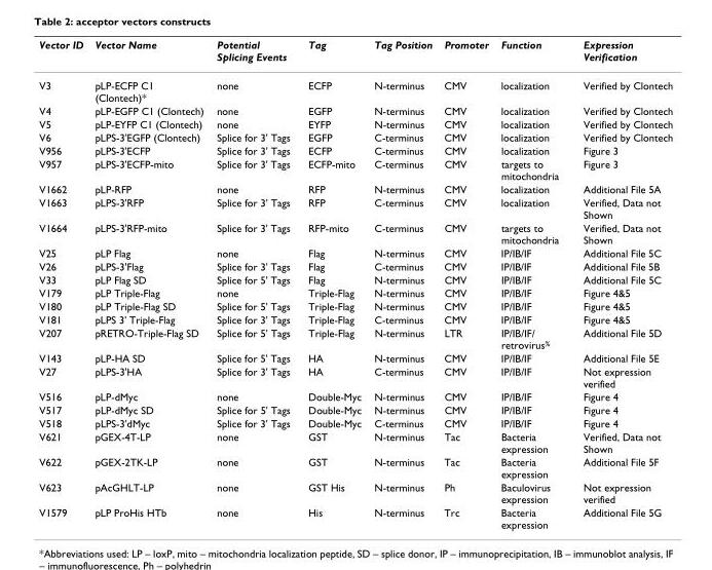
<table><thead><tr><td>Vector ID</td><td>Vector Name</td><td>Potential Splicing Events</td><td>Tag</td><td>Tag Position</td><td>Promoter</td><td>Function</td><td>Expression Verification</td></tr></thead><tbody><tr><td>V3</td><td>pLP-ECFP C1 (Clontech)*</td><td>none</td><td>ECFP</td><td>N-terminus</td><td>CMV</td><td>localization</td><td>Verified by Clontech</td></tr><tr><td>V4</td><td>pLP-EGFP C1 (Clontech)</td><td>none</td><td>EGFP</td><td>N-terminus</td><td>CMV</td><td>localization</td><td>Verified by Clontech</td></tr><tr><td>V5</td><td>pLP-EYFP C1 (Clontech)</td><td>none</td><td>EYFP</td><td>N-terminus</td><td>CMV</td><td>localization</td><td>Verified by Clontech</td></tr><tr><td>V6</td><td>pLPS-3&#x27;EGFP (Clontech)</td><td>Splice for 3&#x27; Tags</td><td>EGFP</td><td>C-terminus</td><td>CMV</td><td>localization</td><td>Verified by Clontech</td></tr><tr><td>V956</td><td>pLPS-3&#x27;ECFP</td><td>Splice for 3&#x27; Tags</td><td>ECFP</td><td>C-terminus</td><td>CMV</td><td>localization</td><td>Figure 3</td></tr><tr><td>V957</td><td>pLPS-3&#x27;ECFP-mito</td><td>Splice for 3&#x27; Tags</td><td>ECFP-mito</td><td>C-terminus</td><td>CMV</td><td>targets to mitochondria</td><td>Figure 3</td></tr><tr><td>V1662</td><td>pLP-RFP</td><td>none</td><td>RFP</td><td>N-terminus</td><td>CMV</td><td>localization</td><td>Additional File 5A</td></tr><tr><td>V1663</td><td>pLPS-3&#x27;RFP</td><td>Splice for 3&#x27; Tags</td><td>RFP</td><td>C-terminus</td><td>CMV</td><td>localization</td><td>Verified, Data not Shown</td></tr><tr><td>V1664</td><td>pLPS-3&#x27;RFP-mito</td><td>Splice for 3&#x27; Tags</td><td>RFP-mito</td><td>C-terminus</td><td>CMV</td><td>targets to mitochondria</td><td>Verified, Data not Shown</td></tr><tr><td>V25</td><td>pLP Flag</td><td>none</td><td>Flag</td><td>N-terminus</td><td>CMV</td><td>IP/IB/IF</td><td>Additional File 5C</td></tr><tr><td>V26</td><td>pLPS-3&#x27;Flag</td><td>Splice for 3&#x27; Tags</td><td>Flag</td><td>C-terminus</td><td>CMV</td><td>IP/IB/IF</td><td>Additional File 5B</td></tr><tr><td>V33</td><td>pLP Flag SD</td><td>Splice for 5&#x27; Tags</td><td>Flag</td><td>N-terminus</td><td>CMV</td><td>IP/IB/IF</td><td>Additional File 5C</td></tr><tr><td>V179</td><td>pLP Triple-Flag</td><td>none</td><td>Triple-Flag</td><td>N-terminus</td><td>CMV</td><td>IP/IB/IF</td><td>Figure 4&amp;5</td></tr><tr><td>V180</td><td>pLP Triple-Flag SD</td><td>Splice for 5&#x27; Tags</td><td>Triple-Flag</td><td>N-terminus</td><td>CMV</td><td>IP/IB/IF</td><td>Figure 4&amp;5</td></tr><tr><td>V181</td><td>pLPS 3&#x27; Triple-Flag</td><td>Splice for 3&#x27; Tags</td><td>Triple-Flag</td><td>C-terminus</td><td>CMV</td><td>IP/IB/IF</td><td>Figure 4&amp;5</td></tr><tr><td>V207</td><td>pRETRO-Triple-Flag SD</td><td>Splice for 5&#x27; Tags</td><td>Triple-Flag</td><td>N-terminus</td><td>LTR</td><td>IP/IB/IF/ retrovirus%</td><td>Additional File 5D</td></tr><tr><td>V143</td><td>pLP-HA SD</td><td>Splice for 5&#x27; Tags</td><td>HA</td><td>N-terminus</td><td>CMV</td><td>IP/IB/IF</td><td>Additional File 5E</td></tr><tr><td>V27</td><td>pLPS-3&#x27;HA</td><td>Splice for 3&#x27; Tags</td><td>HA</td><td>C-terminus</td><td>CMV</td><td>IP/IB/IF</td><td>Not expression verified</td></tr><tr><td>V516</td><td>pLP-dMyc</td><td>none</td><td>Double-Myc</td><td>N-terminus</td><td>CMV</td><td>IP/IB/IF</td><td>Figure 4</td></tr><tr><td>V517</td><td>pLP-dMyc SD</td><td>Splice for 5&#x27; Tags</td><td>Double-Myc</td><td>N-terminus</td><td>CMV</td><td>IP/IB/IF</td><td>Figure 4</td></tr><tr><td>V518</td><td>pLPS-3&#x27;dMyc</td><td>Splice for 3&#x27; Tags</td><td>Double-Myc</td><td>C-terminus</td><td>CMV</td><td>IP/IB/IF</td><td>Figure 4</td></tr><tr><td>V621</td><td>pGEX-4T-LP</td><td>none</td><td>GST</td><td>N-terminus</td><td>Tac</td><td>Bacteria expression</td><td>Verified, Data not Shown</td></tr><tr><td>V622</td><td>pGEX-2TK-LP</td><td>none</td><td>GST</td><td>N-terminus</td><td>Tac</td><td>Bacteria expression</td><td>Additional File 5F</td></tr><tr><td>V623</td><td>pAcGHLT-LP</td><td>none</td><td>GST His</td><td>N-terminus</td><td>Ph</td><td>Baculovirus expression</td><td>Not expression verified</td></tr><tr><td>V1579</td><td>pLP ProHis HTb</td><td>none</td><td>His</td><td>N-terminus</td><td>Trc</td><td>Bacteria expression</td><td>Additional File 5G</td></tr></tbody></table>